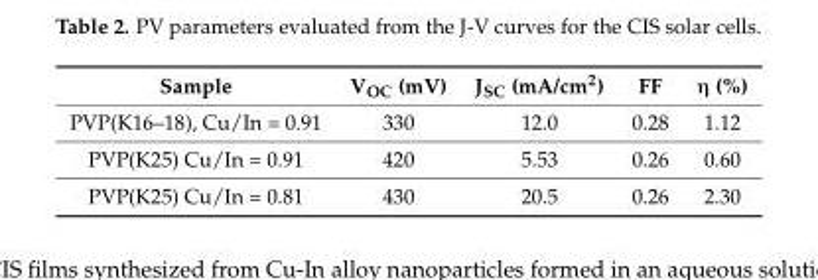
<table><thead><tr><td>Sample</td><td>V<sub>OC</sub> (mV)</td><td>J<sub>SC</sub> (mA/cm<sup>2</sup>)</td><td>FF</td><td>η (%)</td></tr></thead><tbody><tr><td>PVP(K16–18), Cu/In = 0.91</td><td>330</td><td>12.0</td><td>0.28</td><td>1.12</td></tr><tr><td>PVP(K25) Cu/In = 0.91</td><td>420</td><td>5.53</td><td>0.26</td><td>0.60</td></tr><tr><td>PVP(K25) Cu/In = 0.81</td><td>430</td><td>20.5</td><td>0.26</td><td>2.30</td></tr></tbody></table>